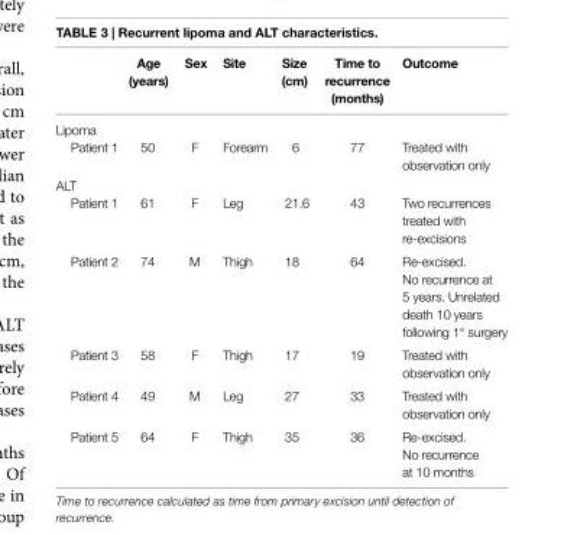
<table><thead><tr><td></td><td>age (years)</td><td>sex</td><td>site</td><td>size (cm)</td><td>Time to recurrence (months)</td><td>Outcome</td></tr></thead><tbody><tr><td colspan="7">Lipoma</td></tr><tr><td>Patient 1</td><td>50</td><td>F</td><td>Forearm</td><td>6</td><td>77</td><td>Treated with observation only</td></tr><tr><td colspan="7">ALT</td></tr><tr><td>Patient 1</td><td>61</td><td>F</td><td>Leg</td><td>21.6</td><td>43</td><td>Two recurrences treated with re-excisions</td></tr><tr><td>Patient 2</td><td>74</td><td>M</td><td>Thigh</td><td>18</td><td>64</td><td>Re-excised. No recurrence at 5 years. Unrelated death 10 years following 1° surgery</td></tr><tr><td>Patient 3</td><td>58</td><td>F</td><td>Thigh</td><td>17</td><td>19</td><td>Treated with observation only</td></tr><tr><td>Patient 4</td><td>49</td><td>M</td><td>Leg</td><td>27</td><td>33</td><td>Treated with observation only</td></tr><tr><td>Patient 5</td><td>64</td><td>F</td><td>Thigh</td><td>35</td><td>36</td><td>Re-excised. No recurrence at 10 months</td></tr></tbody></table>